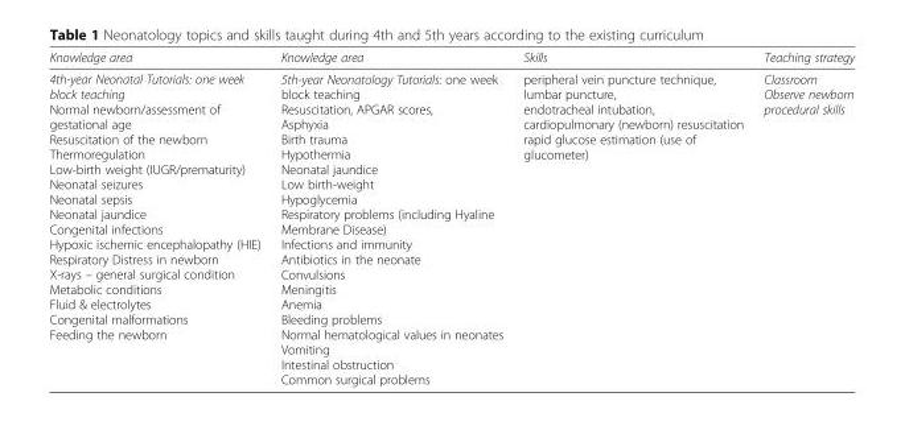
<table><thead><tr><td>Knowledge area</td><td>Knowledge area</td><td>Skills</td><td>Teaching strategy</td></tr></thead><tbody><tr><td>4th-year Neonatal Tutorials: one week block teaching Normal newborn/assessment of gestational age Resuscitation of the newborn Thermoregulation Low-birth weight (IUGR/prematurity) Neonatal seizures Neonatal sepsis Neonatal jaundice Congenital infections Hypoxic ischemic encephalopathy (HIE) Respiratory Distress in newborn X-rays – general surgical condition Metabolic conditions Fluid &amp; electrolytes Congenital malformations Feeding the newborn</td><td>5th-year Neonatology Tutorials: one week block teaching Resuscitation, APGAR scores, Asphyxia Birth trauma Hypothermia Neonatal jaundice Low birth-weight Hypoglycemia Respiratory problems (including Hyaline Membrane Disease) Infections and immunity Antibiotics in the neonate Convulsions Meningitis Anemia Bleeding problems Normal hematological values in neonates Vomiting Intestinal obstruction Common surgical problems</td><td>peripheral vein puncture technique, lumbar puncture, endotracheal intubation, cardiopulmonary (newborn) resuscitation rapid glucose estimation (use of glucometer)</td><td>Classroom Observe newborn procedural skills</td></tr></tbody></table>